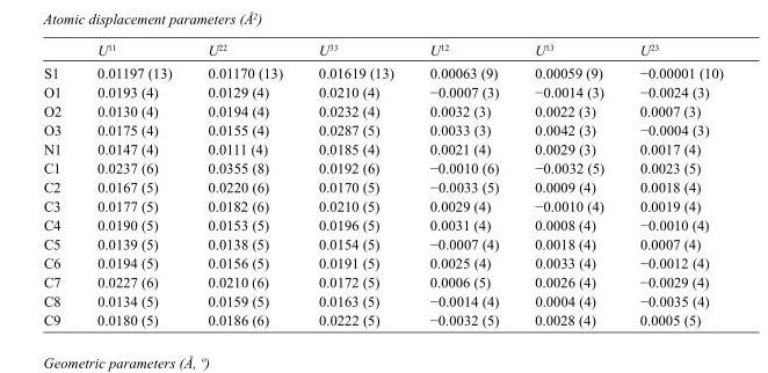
<table><thead><tr><td></td><td>U<sup>11</sup></td><td>U<sup>22</sup></td><td>U<sup>33</sup></td><td>U<sup>12</sup></td><td>U<sup>13</sup></td><td>U<sup>23</sup></td></tr></thead><tbody><tr><td>S1</td><td>0.01197 (13)</td><td>0.01170 (13)</td><td>0.01619 (13)</td><td>0.00063 (9)</td><td>0.00059 (9)</td><td>−0.00001 (10)</td></tr><tr><td>O1</td><td>0.0193 (4)</td><td>0.0129 (4)</td><td>0.0210 (4)</td><td>−0.0007 (3)</td><td>−0.0014 (3)</td><td>−0.0024 (3)</td></tr><tr><td>O2</td><td>0.0130 (4)</td><td>0.0194 (4)</td><td>0.0232 (4)</td><td>0.0032 (3)</td><td>0.0022 (3)</td><td>0.0007 (3)</td></tr><tr><td>O3</td><td>0.0175 (4)</td><td>0.0155 (4)</td><td>0.0287 (5)</td><td>0.0033 (3)</td><td>0.0042 (3)</td><td>−0.0004 (3)</td></tr><tr><td>N1</td><td>0.0147 (4)</td><td>0.0111 (4)</td><td>0.0185 (4)</td><td>0.0021 (4)</td><td>0.0029 (3)</td><td>0.0017 (4)</td></tr><tr><td>C1</td><td>0.0237 (6)</td><td>0.0355 (8)</td><td>0.0192 (6)</td><td>−0.0010 (6)</td><td>−0.0032 (5)</td><td>0.0023 (5)</td></tr><tr><td>C2</td><td>0.0167 (5)</td><td>0.0220 (6)</td><td>0.0170 (5)</td><td>−0.0033 (5)</td><td>0.0009 (4)</td><td>0.0018 (4)</td></tr><tr><td>C3</td><td>0.0177 (5)</td><td>0.0182 (6)</td><td>0.0210 (5)</td><td>0.0029 (4)</td><td>−0.0010 (4)</td><td>0.0019 (4)</td></tr><tr><td>C4</td><td>0.0190 (5)</td><td>0.0153 (5)</td><td>0.0196 (5)</td><td>0.0031 (4)</td><td>0.0008 (4)</td><td>−0.0010 (4)</td></tr><tr><td>C5</td><td>0.0139 (5)</td><td>0.0138 (5)</td><td>0.0154 (5)</td><td>−0.0007 (4)</td><td>0.0018 (4)</td><td>0.0007 (4)</td></tr><tr><td>C6</td><td>0.0194 (5)</td><td>0.0156 (5)</td><td>0.0191 (5)</td><td>0.0025 (4)</td><td>0.0033 (4)</td><td>−0.0012 (4)</td></tr><tr><td>C7</td><td>0.0227 (6)</td><td>0.0210 (6)</td><td>0.0172 (5)</td><td>0.0006 (5)</td><td>0.0026 (4)</td><td>−0.0029 (4)</td></tr><tr><td>C8</td><td>0.0134 (5)</td><td>0.0159 (5)</td><td>0.0163 (5)</td><td>−0.0014 (4)</td><td>0.0004 (4)</td><td>−0.0035 (4)</td></tr><tr><td>C9</td><td>0.0180 (5)</td><td>0.0186 (6)</td><td>0.0222 (5)</td><td>−0.0032 (5)</td><td>0.0028 (4)</td><td>0.0005 (5)</td></tr></tbody></table>